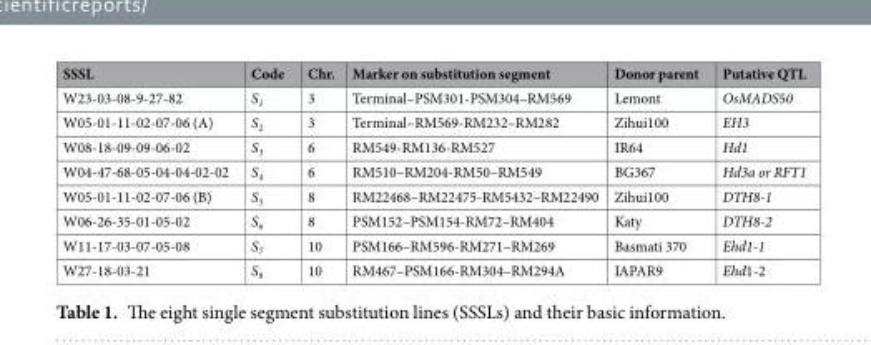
<table><thead><tr><td>SSSL</td><td>Code</td><td>Chr.</td><td>Marker on substitution segment</td><td>Donor parent</td><td>Putative QTL</td></tr></thead><tbody><tr><td>W23-03-08-9-27-82</td><td>S<sub>1</sub></td><td>3</td><td>Terminal–PSM301-PSM304–RM569</td><td>Lemont</td><td>OsMADS50</td></tr><tr><td>W05-01-11-02-07-06 (A)</td><td>S<sub>2</sub></td><td>3</td><td>Terminal–RM569-RM232–RM282</td><td>Zihui100</td><td>EH3</td></tr><tr><td>W08-18-09-09-06-02</td><td>S<sub>3</sub></td><td>6</td><td>RM549-RM136-RM527</td><td>IR64</td><td>Hd1</td></tr><tr><td>W04-47-68-05-04-04-02-02</td><td>S<sub>4</sub></td><td>6</td><td>RM510–RM204-RM50–RM549</td><td>BG367</td><td>Hd3a or RFT1</td></tr><tr><td>W05-01-11-02-07-06 (B)</td><td>S<sub>5</sub></td><td>8</td><td>RM22468–RM22475-RM5432–RM22490</td><td>Zihui100</td><td>DTH8-1</td></tr><tr><td>W06-26-35-01-05-02</td><td>S<sub>6</sub></td><td>8</td><td>PSM152–PSM154-RM72–RM404</td><td>Katy</td><td>DTH8-2</td></tr><tr><td>W11-17-03-07-05-08</td><td>S<sub>7</sub></td><td>10</td><td>PSM166–RM596-RM271–RM269</td><td>Basmati 370</td><td>Ehd1-1</td></tr><tr><td>W27-18-03-21</td><td>S<sub>8</sub></td><td>10</td><td>RM467–PSM166-RM304–RM294A</td><td>IAPAR9</td><td>Ehd1-2</td></tr></tbody></table>